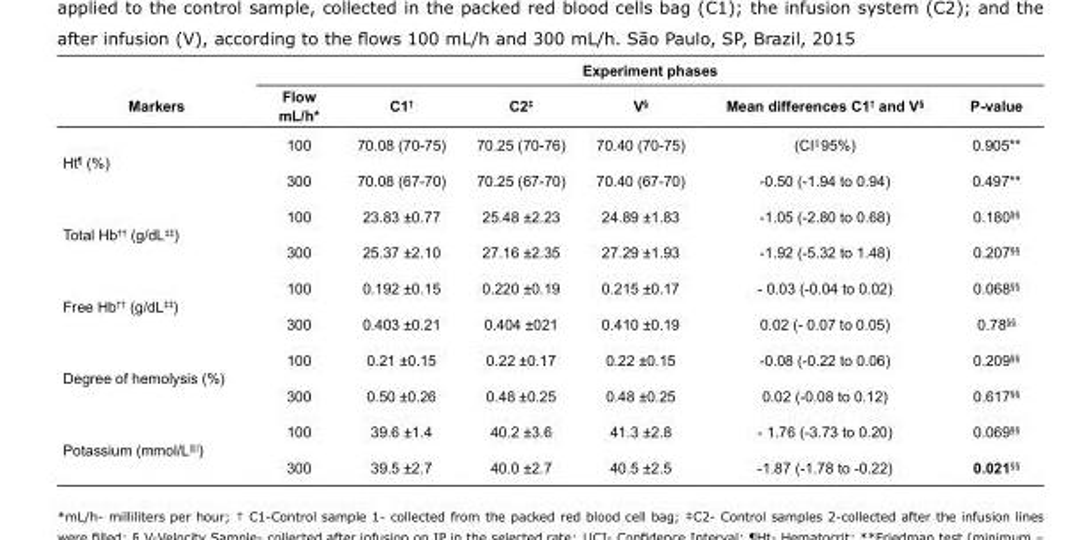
<table><thead><tr><td rowspan="2">Markers</td><td colspan="6">Experiment phases</td></tr><tr><td>Flow mL/h*</td><td>C1<sup>†</sup></td><td>C2<sup>‡</sup></td><td>V<sup>§</sup></td><td>Mean differences C1<sup>†</sup> and V<sup>§</sup></td><td>P-value</td></tr></thead><tbody><tr><td rowspan="2">Ht<sup>¶</sup> (%)</td><td>100</td><td>70.08 (70-75)</td><td>70.25 (70-76)</td><td>70.40 (70-75)</td><td>(CI<sup>||</sup> 95%)</td><td>0.905**</td></tr><tr><td>300</td><td>70.08 (67-70)</td><td>70.25 (67-70)</td><td>70.40 (67-70)</td><td>-0.50 (-1.94 to 0.94)</td><td>0.497**</td></tr><tr><td rowspan="2">Total Hb<sup>††</sup> (g/dL<sup>‡‡</sup>)</td><td>100</td><td>23.83 ±0.77</td><td>25.48 ±2.23</td><td>24.89 ±1.83</td><td>-1.05 (-2.80 to 0.68)</td><td>0.180<sup>§§</sup></td></tr><tr><td>300</td><td>25.37 ±2.10</td><td>27.16 ±2.35</td><td>27.29 ±1.93</td><td>-1.92 (-5.32 to 1.48)</td><td>0.207<sup>§§</sup></td></tr><tr><td rowspan="2">Free Hb<sup>††</sup> (g/dL<sup>‡‡</sup>)</td><td>100</td><td>0.192 ±0.15</td><td>0.220 ±0.19</td><td>0.215 ±0.17</td><td>- 0.03 (-0.04 to 0.02)</td><td>0.068<sup>§§</sup></td></tr><tr><td>300</td><td>0.403 ±0.21</td><td>0.404 ±021</td><td>0.410 ±0.19</td><td>0.02 (- 0.07 to 0.05)</td><td>0.78<sup>§§</sup></td></tr><tr><td rowspan="2">Degree of hemolysis (%)</td><td>100</td><td>0.21 ±0.15</td><td>0.22 ±0.17</td><td>0.22 ±0.15</td><td>-0.08 (-0.22 to 0.06)</td><td>0.209<sup>§§</sup></td></tr><tr><td>300</td><td>0.50 ±0.26</td><td>0.48 ±0.25</td><td>0.48 ±0.25</td><td>0.02 (-0.08 to 0.12)</td><td>0.617<sup>§§</sup></td></tr><tr><td rowspan="2">Potassium (mmol/L<sup>||||</sup>)</td><td>100</td><td>39.6 ±1.4</td><td>40.2 ±3.6</td><td>41.3 ±2.8</td><td>- 1.76 (-3.73 to 0.20)</td><td>0.069<sup>§§</sup></td></tr><tr><td>300</td><td>39.5 ±2.7</td><td>40.0 ±2.7</td><td>40.5 ±2.5</td><td>-1.87 (-1.78 to -0.22)</td><td>0.021<sup>§§</sup></td></tr></tbody></table>